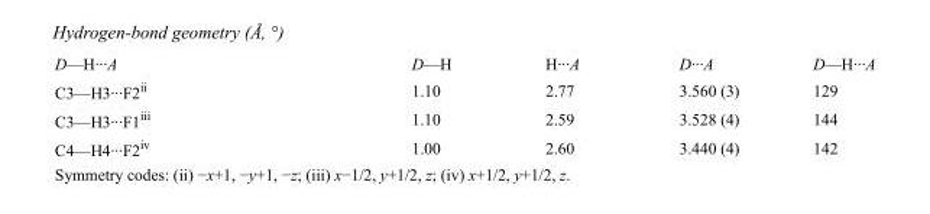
<table><tbody><tr><td>D—H···A</td><td>D—H</td><td>H···A</td><td>D···A</td><td>D—H···A</td></tr><tr><td>C3—H3···F2<sup>ii</sup></td><td>1.10</td><td>2.77</td><td>3.560 (3)</td><td>129</td></tr><tr><td>C3—H3···F1<sup>iii</sup></td><td>1.10</td><td>2.59</td><td>3.528 (4)</td><td>144</td></tr><tr><td>C4—H4···F2<sup>iv</sup></td><td>1.00</td><td>2.60</td><td>3.440 (4)</td><td>142</td></tr></tbody></table>